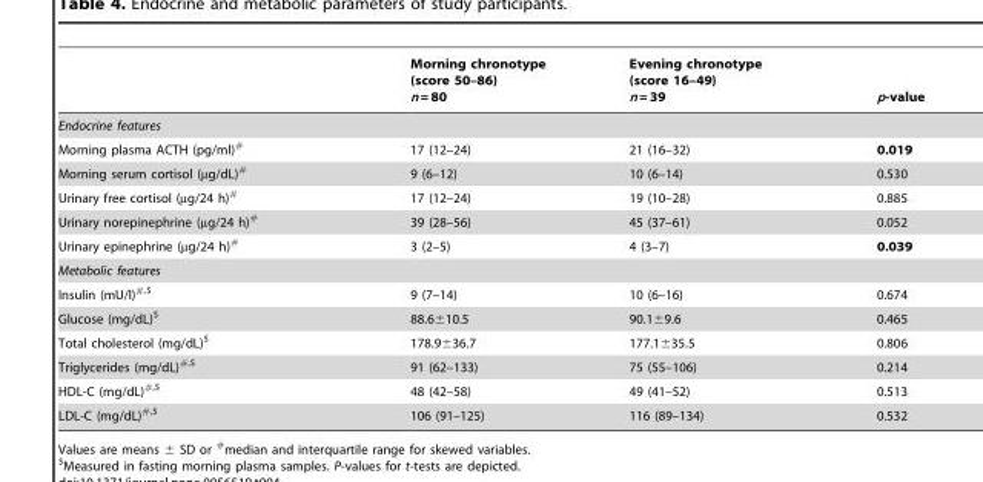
<table><thead><tr><td></td><td>Morning chronotype (score 50–86) n = 80</td><td>Evening chronotype (score 16–49) n = 39</td><td>p-value</td></tr></thead><tbody><tr><td colspan="4">Endocrine features</td></tr><tr><td>Morning plasma ACTH (pg/ml)<sup>#</sup></td><td>17 (12–24)</td><td>21 (16–32)</td><td>0.019</td></tr><tr><td>Morning serum cortisol (µg/dL)<sup>#</sup></td><td>9 (6–12)</td><td>10 (6–14)</td><td>0.530</td></tr><tr><td>Urinary free cortisol (µg/24 h)<sup>#</sup></td><td>17 (12–24)</td><td>19 (10–28)</td><td>0.885</td></tr><tr><td>Urinary norepinephrine (µg/24 h)<sup>#</sup></td><td>39 (28–56)</td><td>45 (37–61)</td><td>0.052</td></tr><tr><td>Urinary epinephrine (µg/24 h)<sup>#</sup></td><td>3 (2–5)</td><td>4 (3–7)</td><td>0.039</td></tr><tr><td colspan="4">Metabolic features</td></tr><tr><td>Insulin (mU/l)<sup>#,</sup>$</td><td>9 (7–14)</td><td>10 (6–16)</td><td>0.674</td></tr><tr><td>Glucose (mg/dL)$</td><td>88.6±10.5</td><td>90.1±9.6</td><td>0.465</td></tr><tr><td>Total cholesterol (mg/dL)$</td><td>178.9±36.7</td><td>177.1±35.5</td><td>0.806</td></tr><tr><td>Triglycerides (mg/dL)<sup>#,</sup>$</td><td>91 (62–133)</td><td>75 (55–106)</td><td>0.214</td></tr><tr><td>HDL-C (mg/dL)<sup>#,</sup>$</td><td>48 (42–58)</td><td>49 (41–52)</td><td>0.513</td></tr><tr><td>LDL-C (mg/dL)<sup>#,</sup>$</td><td>106 (91–125)</td><td>116 (89–134)</td><td>0.532</td></tr></tbody></table>